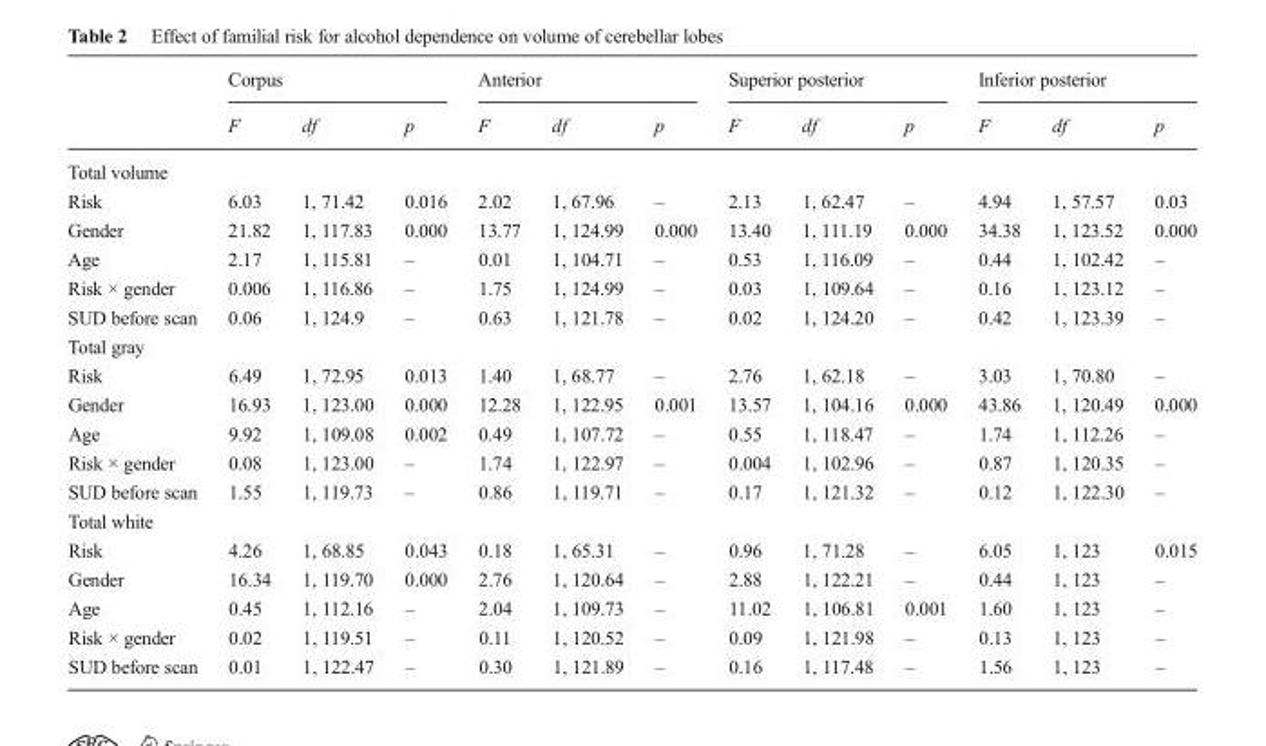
<table><thead><tr><td rowspan="2"></td><td colspan="3">Corpus</td><td colspan="3">Anterior</td><td colspan="3">Superior posterior</td><td colspan="3">Inferior posterior</td></tr><tr><td>F</td><td>df</td><td>p</td><td>F</td><td>df</td><td>p</td><td>F</td><td>df</td><td>p</td><td>F</td><td>df</td><td>p</td></tr></thead><tbody><tr><td colspan="13">Total volume</td></tr><tr><td>Risk</td><td>6.03</td><td>1, 71.42</td><td>0.016</td><td>2.02</td><td>1, 67.96</td><td>–</td><td>2.13</td><td>1, 62.47</td><td>–</td><td>4.94</td><td>1, 57.57</td><td>0.03</td></tr><tr><td>Gender</td><td>21.82</td><td>1, 117.83</td><td>0.000</td><td>13.77</td><td>1, 124.99</td><td>0.000</td><td>13.40</td><td>1, 111.19</td><td>0.000</td><td>34.38</td><td>1, 123.52</td><td>0.000</td></tr><tr><td>Age</td><td>2.17</td><td>1, 115.81</td><td>–</td><td>0.01</td><td>1, 104.71</td><td>–</td><td>0.53</td><td>1, 116.09</td><td>–</td><td>0.44</td><td>1, 102.42</td><td>–</td></tr><tr><td>Risk × gender</td><td>0.006</td><td>1, 116.86</td><td>–</td><td>1.75</td><td>1, 124.99</td><td>–</td><td>0.03</td><td>1, 109.64</td><td>–</td><td>0.16</td><td>1, 123.12</td><td>–</td></tr><tr><td>SUD before scan</td><td>0.06</td><td>1, 124.9</td><td>–</td><td>0.63</td><td>1, 121.78</td><td>–</td><td>0.02</td><td>1, 124.20</td><td>–</td><td>0.42</td><td>1, 123.39</td><td>–</td></tr><tr><td colspan="13">Total gray</td></tr><tr><td>Risk</td><td>6.49</td><td>1, 72.95</td><td>0.013</td><td>1.40</td><td>1, 68.77</td><td>–</td><td>2.76</td><td>1, 62.18</td><td>–</td><td>3.03</td><td>1, 70.80</td><td>–</td></tr><tr><td>Gender</td><td>16.93</td><td>1, 123.00</td><td>0.000</td><td>12.28</td><td>1, 122.95</td><td>0.001</td><td>13.57</td><td>1, 104.16</td><td>0.000</td><td>43.86</td><td>1, 120.49</td><td>0.000</td></tr><tr><td>Age</td><td>9.92</td><td>1, 109.08</td><td>0.002</td><td>0.49</td><td>1, 107.72</td><td>–</td><td>0.55</td><td>1, 118.47</td><td>–</td><td>1.74</td><td>1, 112.26</td><td>–</td></tr><tr><td>Risk × gender</td><td>0.08</td><td>1, 123.00</td><td>–</td><td>1.74</td><td>1, 122.97</td><td>–</td><td>0.004</td><td>1, 102.96</td><td>–</td><td>0.87</td><td>1, 120.35</td><td>–</td></tr><tr><td>SUD before scan</td><td>1.55</td><td>1, 119.73</td><td>–</td><td>0.86</td><td>1, 119.71</td><td>–</td><td>0.17</td><td>1, 121.32</td><td>–</td><td>0.12</td><td>1, 122.30</td><td>–</td></tr><tr><td colspan="13">Total white</td></tr><tr><td>Risk</td><td>4.26</td><td>1, 68.85</td><td>0.043</td><td>0.18</td><td>1, 65.31</td><td>–</td><td>0.96</td><td>1, 71.28</td><td>–</td><td>6.05</td><td>1, 123</td><td>0.015</td></tr><tr><td>Gender</td><td>16.34</td><td>1, 119.70</td><td>0.000</td><td>2.76</td><td>1, 120.64</td><td>–</td><td>2.88</td><td>1, 122.21</td><td>–</td><td>0.44</td><td>1, 123</td><td>–</td></tr><tr><td>Age</td><td>0.45</td><td>1, 112.16</td><td>–</td><td>2.04</td><td>1, 109.73</td><td>–</td><td>11.02</td><td>1, 106.81</td><td>0.001</td><td>1.60</td><td>1, 123</td><td>–</td></tr><tr><td>Risk × gender</td><td>0.02</td><td>1, 119.51</td><td>–</td><td>0.11</td><td>1, 120.52</td><td>–</td><td>0.09</td><td>1, 121.98</td><td>–</td><td>0.13</td><td>1, 123</td><td>–</td></tr><tr><td>SUD before scan</td><td>0.01</td><td>1, 122.47</td><td>–</td><td>0.30</td><td>1, 121.89</td><td>–</td><td>0.16</td><td>1, 117.48</td><td>–</td><td>1.56</td><td>1, 123</td><td>–</td></tr></tbody></table>